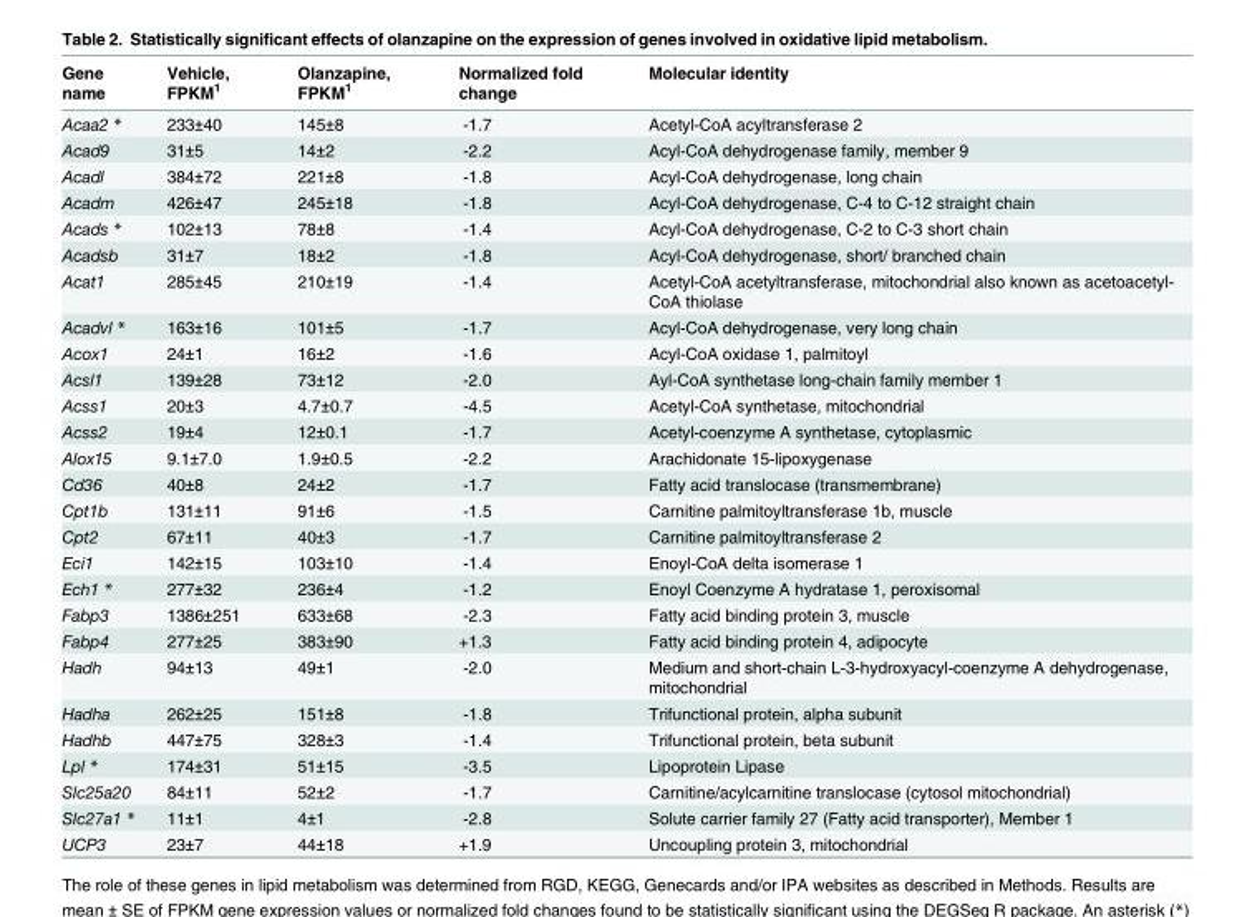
<table><thead><tr><td>Gene name</td><td>Vehicle, FPKM<sup>1</sup></td><td>Olanzapine, FPKM<sup>1</sup></td><td>Normalized fold change</td><td>Molecular identity</td></tr></thead><tbody><tr><td>Acaa2 *</td><td>233±40</td><td>145±8</td><td>-1.7</td><td>Acetyl-CoA acyltransferase 2</td></tr><tr><td>Acad9</td><td>31±5</td><td>14±2</td><td>-2.2</td><td>Acyl-CoA dehydrogenase family, member 9</td></tr><tr><td>Acadl</td><td>384±72</td><td>221±8</td><td>-1.8</td><td>Acyl-CoA dehydrogenase, long chain</td></tr><tr><td>Acadm</td><td>426±47</td><td>245±18</td><td>-1.8</td><td>Acyl-CoA dehydrogenase, C-4 to C-12 straight chain</td></tr><tr><td>Acads *</td><td>102±13</td><td>78±8</td><td>-1.4</td><td>Acyl-CoA dehydrogenase, C-2 to C-3 short chain</td></tr><tr><td>Acadsb</td><td>31±7</td><td>18±2</td><td>-1.8</td><td>Acyl-CoA dehydrogenase, short/ branched chain</td></tr><tr><td>Acat1</td><td>285±45</td><td>210±19</td><td>-1.4</td><td>Acetyl-CoA acetyltransferase, mitochondrial also known as acetoacetyl- CoA thiolase</td></tr><tr><td>Acadvl *</td><td>163±16</td><td>101±5</td><td>-1.7</td><td>Acyl-CoA dehydrogenase, very long chain</td></tr><tr><td>Acox1</td><td>24±1</td><td>16±2</td><td>-1.6</td><td>Acyl-CoA oxidase 1, palmitoyl</td></tr><tr><td>Acsl1</td><td>139±28</td><td>73±12</td><td>-2.0</td><td>Ayl-CoA synthetase long-chain family member 1</td></tr><tr><td>Acss1</td><td>20±3</td><td>4.7±0.7</td><td>-4.5</td><td>Acetyl-CoA synthetase, mitochondrial</td></tr><tr><td>Acss2</td><td>19±4</td><td>12±0.1</td><td>-1.7</td><td>Acetyl-coenzyme A synthetase, cytoplasmic</td></tr><tr><td>Alox15</td><td>9.1±7.0</td><td>1.9±0.5</td><td>-2.2</td><td>Arachidonate 15-lipoxygenase</td></tr><tr><td>Cd36</td><td>40±8</td><td>24±2</td><td>-1.7</td><td>Fatty acid translocase (transmembrane)</td></tr><tr><td>Cpt1b</td><td>131±11</td><td>91±6</td><td>-1.5</td><td>Carnitine palmitoyltransferase 1b, muscle</td></tr><tr><td>Cpt2</td><td>67±11</td><td>40±3</td><td>-1.7</td><td>Carnitine palmitoyltransferase 2</td></tr><tr><td>Eci1</td><td>142±15</td><td>103±10</td><td>-1.4</td><td>Enoyl-CoA delta isomerase 1</td></tr><tr><td>Ech1 *</td><td>277±32</td><td>236±4</td><td>-1.2</td><td>Enoyl Coenzyme A hydratase 1, peroxisomal</td></tr><tr><td>Fabp3</td><td>1386±251</td><td>633±68</td><td>-2.3</td><td>Fatty acid binding protein 3, muscle</td></tr><tr><td>Fabp4</td><td>277±25</td><td>383±90</td><td>+1.3</td><td>Fatty acid binding protein 4, adipocyte</td></tr><tr><td>Hadh</td><td>94±13</td><td>49±1</td><td>-2.0</td><td>Medium and short-chain L-3-hydroxyacyl-coenzyme A dehydrogenase, mitochondrial</td></tr><tr><td>Hadha</td><td>262±25</td><td>151±8</td><td>-1.8</td><td>Trifunctional protein, alpha subunit</td></tr><tr><td>Hadhb</td><td>447±75</td><td>328±3</td><td>-1.4</td><td>Trifunctional protein, beta subunit</td></tr><tr><td>Lpl *</td><td>174±31</td><td>51±15</td><td>-3.5</td><td>Lipoprotein Lipase</td></tr><tr><td>Slc25a20</td><td>84±11</td><td>52±2</td><td>-1.7</td><td>Carnitine/acylcarnitine translocase (cytosol mitochondrial)</td></tr><tr><td>Slc27a1 *</td><td>11±1</td><td>4±1</td><td>-2.8</td><td>Solute carrier family 27 (Fatty acid transporter), Member 1</td></tr><tr><td>UCP3</td><td>23±7</td><td>44±18</td><td>+1.9</td><td>Uncoupling protein 3, mitochondrial</td></tr></tbody></table>